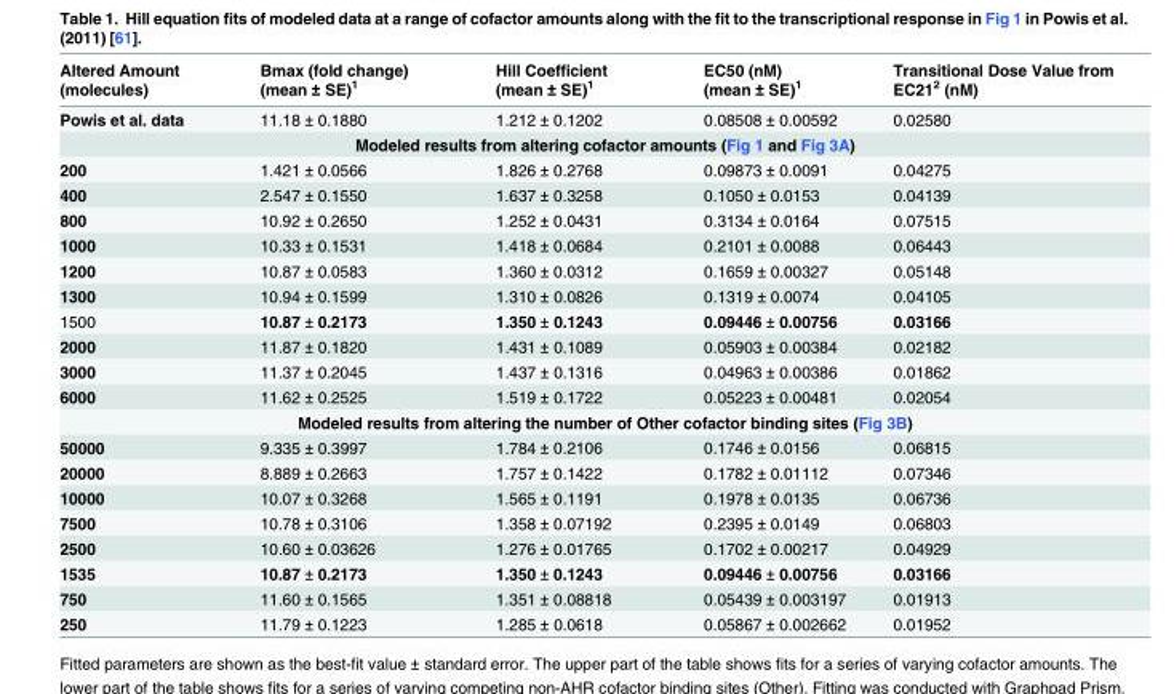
<table><thead><tr><td>Altered Amount (molecules)</td><td>Bmax (fold change) (mean ± SE)<sup>1</sup></td><td>Hill Coefficient (mean ± SE)<sup>1</sup></td><td>EC50 (nM) (mean ± SE)<sup>1</sup></td><td>Transitional Dose Value from EC21<sup>2</sup> (nM)</td></tr></thead><tbody><tr><td>Powis et al. data</td><td>11.18 ± 0.1880</td><td>1.212 ± 0.1202</td><td>0.08508 ± 0.00592</td><td>0.02580</td></tr><tr><td colspan="5">Modeled results from altering cofactor amounts (Fig 1 and Fig 3A)</td></tr><tr><td>200</td><td>1.421 ± 0.0566</td><td>1.826 ± 0.2768</td><td>0.09873 ± 0.0091</td><td>0.04275</td></tr><tr><td>400</td><td>2.547 ± 0.1550</td><td>1.637 ± 0.3258</td><td>0.1050 ± 0.0153</td><td>0.04139</td></tr><tr><td>800</td><td>10.92 ± 0.2650</td><td>1.252 ± 0.0431</td><td>0.3134 ± 0.0164</td><td>0.07515</td></tr><tr><td>1000</td><td>10.33 ± 0.1531</td><td>1.418 ± 0.0684</td><td>0.2101 ± 0.0088</td><td>0.06443</td></tr><tr><td>1200</td><td>10.87 ± 0.0583</td><td>1.360 ± 0.0312</td><td>0.1659 ± 0.00327</td><td>0.05148</td></tr><tr><td>1300</td><td>10.94 ± 0.1599</td><td>1.310 ± 0.0826</td><td>0.1319 ± 0.0074</td><td>0.04105</td></tr><tr><td>1500</td><td>10.87 ± 0.2173</td><td>1.350 ± 0.1243</td><td>0.09446 ± 0.00756</td><td>0.03166</td></tr><tr><td>2000</td><td>11.87 ± 0.1820</td><td>1.431 ± 0.1089</td><td>0.05903 ± 0.00384</td><td>0.02182</td></tr><tr><td>3000</td><td>11.37 ± 0.2045</td><td>1.437 ± 0.1316</td><td>0.04963 ± 0.00386</td><td>0.01862</td></tr><tr><td>6000</td><td>11.62 ± 0.2525</td><td>1.519 ± 0.1722</td><td>0.05223 ± 0.00481</td><td>0.02054</td></tr><tr><td colspan="5">Modeled results from altering the number of Other cofactor binding sites (Fig 3B)</td></tr><tr><td>50000</td><td>9.335 ± 0.3997</td><td>1.784 ± 0.2106</td><td>0.1746 ± 0.0156</td><td>0.06815</td></tr><tr><td>20000</td><td>8.889 ± 0.2663</td><td>1.757 ± 0.1422</td><td>0.1782 ± 0.01112</td><td>0.07346</td></tr><tr><td>10000</td><td>10.07 ± 0.3268</td><td>1.565 ± 0.1191</td><td>0.1978 ± 0.0135</td><td>0.06736</td></tr><tr><td>7500</td><td>10.78 ± 0.3106</td><td>1.358 ± 0.07192</td><td>0.2395 ± 0.0149</td><td>0.06803</td></tr><tr><td>2500</td><td>10.60 ± 0.03626</td><td>1.276 ± 0.01765</td><td>0.1702 ± 0.00217</td><td>0.04929</td></tr><tr><td>1535</td><td>10.87 ± 0.2173</td><td>1.350 ± 0.1243</td><td>0.09446 ± 0.00756</td><td>0.03166</td></tr><tr><td>750</td><td>11.60 ± 0.1565</td><td>1.351 ± 0.08818</td><td>0.05439 ± 0.003197</td><td>0.01913</td></tr><tr><td>250</td><td>11.79 ± 0.1223</td><td>1.285 ± 0.0618</td><td>0.05867 ± 0.002662</td><td>0.01952</td></tr></tbody></table>